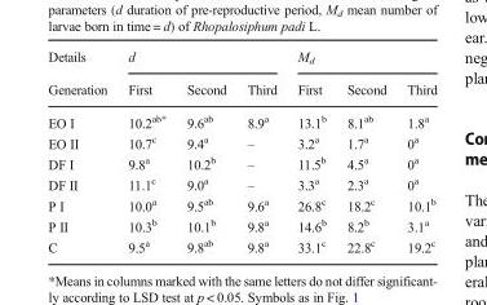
<table><thead><tr><td rowspan="2">Details Generation</td><td colspan="3">d</td><td colspan="3">M<sub>d</sub></td></tr><tr><td>First</td><td>Second</td><td>Third</td><td>First</td><td>Second</td><td>Third</td></tr></thead><tbody><tr><td>EO I</td><td>10.2<sup>ab*</sup></td><td>9.6<sup>ab</sup></td><td>8.9<sup>a</sup></td><td>13.1<sup>b</sup></td><td>8.1<sup>ab</sup></td><td>1.8<sup>a</sup></td></tr><tr><td>EO II</td><td>10.7<sup>c</sup></td><td>9.4<sup>a</sup></td><td>–</td><td>3.2<sup>a</sup></td><td>1.7<sup>a</sup></td><td>0<sup>a</sup></td></tr><tr><td>DF I</td><td>9.8<sup>a</sup></td><td>10.2<sup>b</sup></td><td>–</td><td>11.5<sup>b</sup></td><td>4.5<sup>a</sup></td><td>0<sup>a</sup></td></tr><tr><td>DF II</td><td>11.1<sup>c</sup></td><td>9.0<sup>a</sup></td><td>–</td><td>3.3<sup>a</sup></td><td>2.3<sup>a</sup></td><td>0<sup>a</sup></td></tr><tr><td>P I</td><td>10.0<sup>a</sup></td><td>9.5<sup>ab</sup></td><td>9.6<sup>a</sup></td><td>26.8<sup>c</sup></td><td>18.2<sup>c</sup></td><td>10.1<sup>b</sup></td></tr><tr><td>P II</td><td>10.3<sup>b</sup></td><td>10.1<sup>b</sup></td><td>9.8<sup>a</sup></td><td>14.6<sup>b</sup></td><td>8.2<sup>b</sup></td><td>3.1<sup>a</sup></td></tr><tr><td>C</td><td>9.5<sup>a</sup></td><td>9.8<sup>ab</sup></td><td>9.8<sup>a</sup></td><td>33.1<sup>c</sup></td><td>22.8<sup>c</sup></td><td>19.2<sup>c</sup></td></tr></tbody></table>